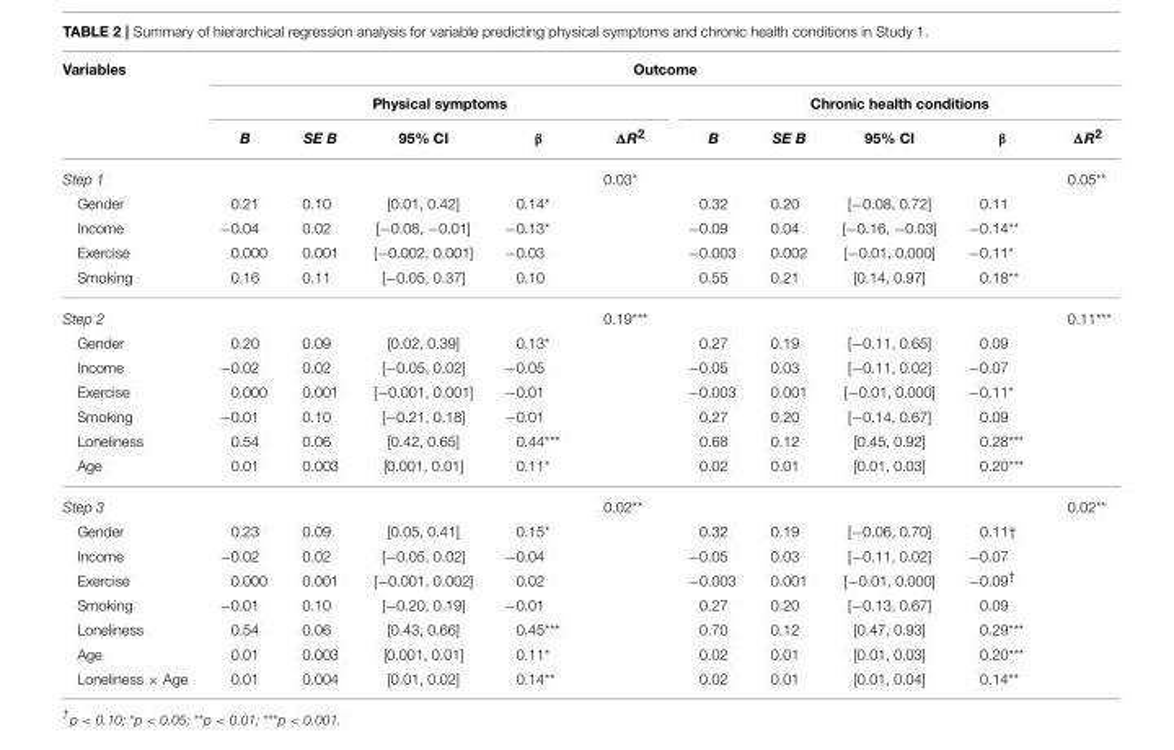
<table><thead><tr><td rowspan="3">Variables</td><td colspan="10">Outcome</td></tr><tr><td colspan="5">Physical symptoms</td><td colspan="5">Chronic health conditions</td></tr><tr><td>B</td><td>SE B</td><td>95% CI</td><td>β</td><td>ΔR<sup>2</sup></td><td>B</td><td>SE B</td><td>95% CI</td><td>β</td><td>ΔR<sup>2</sup></td></tr></thead><tbody><tr><td>Step 1</td><td></td><td></td><td></td><td></td><td>0.03*</td><td></td><td></td><td></td><td></td><td>0.05**</td></tr><tr><td>Gender</td><td>0.21</td><td>0.10</td><td>[0.01, 0.42]</td><td>0.14*</td><td></td><td>0.32</td><td>0.20</td><td>[−0.08, 0.72]</td><td>0.11</td><td></td></tr><tr><td>Income</td><td>−0.04</td><td>0.02</td><td>[−0.08, −0.01]</td><td>−0.13*</td><td></td><td>−0.09</td><td>0.04</td><td>[−0.16, −0.03]</td><td>−0.14**</td><td></td></tr><tr><td>Exercise</td><td>0.000</td><td>0.001</td><td>[−0.002, 0.001]</td><td>−0.03</td><td></td><td>−0.003</td><td>0.002</td><td>[−0.01, 0.000]</td><td>−0.11*</td><td></td></tr><tr><td>Smoking</td><td>0.16</td><td>0.11</td><td>[−0.05, 0.37]</td><td>0.10</td><td></td><td>0.55</td><td>0.21</td><td>[0.14, 0.97]</td><td>0.18**</td><td></td></tr><tr><td>Step 2</td><td></td><td></td><td></td><td></td><td>0.19***</td><td></td><td></td><td></td><td></td><td>0.11***</td></tr><tr><td>Gender</td><td>0.20</td><td>0.09</td><td>[0.02, 0.39]</td><td>0.13*</td><td></td><td>0.27</td><td>0.19</td><td>[−0.11, 0.65]</td><td>0.09</td><td></td></tr><tr><td>Income</td><td>−0.02</td><td>0.02</td><td>[−0.05, 0.02]</td><td>−0.05</td><td></td><td>−0.05</td><td>0.03</td><td>[−0.11, 0.02]</td><td>−0.07</td><td></td></tr><tr><td>Exercise</td><td>0.000</td><td>0.001</td><td>[−0.001, 0.001]</td><td>−0.01</td><td></td><td>−0.003</td><td>0.001</td><td>[−0.01, 0.000]</td><td>−0.11*</td><td></td></tr><tr><td>Smoking</td><td>−0.01</td><td>0.10</td><td>[−0.21, 0.18]</td><td>−0.01</td><td></td><td>0.27</td><td>0.20</td><td>[−0.14, 0.67]</td><td>0.09</td><td></td></tr><tr><td>Loneliness</td><td>0.54</td><td>0.06</td><td>[0.42, 0.65]</td><td>0.44***</td><td></td><td>0.68</td><td>0.12</td><td>[0.45, 0.92]</td><td>0.28***</td><td></td></tr><tr><td>Age</td><td>0.01</td><td>0.003</td><td>[0.001, 0.01]</td><td>0.11*</td><td></td><td>0.02</td><td>0.01</td><td>[0.01, 0.03]</td><td>0.20***</td><td></td></tr><tr><td>Step 3</td><td></td><td></td><td></td><td></td><td>0.02**</td><td></td><td></td><td></td><td></td><td>0.02**</td></tr><tr><td>Gender</td><td>0.23</td><td>0.09</td><td>[0.05, 0.41]</td><td>0.15*</td><td></td><td>0.32</td><td>0.19</td><td>[−0.06, 0.70]</td><td>0.11<sup>†</sup></td><td></td></tr><tr><td>Income</td><td>−0.02</td><td>0.02</td><td>[−0.05, 0.02]</td><td>−0.04</td><td></td><td>−0.05</td><td>0.03</td><td>[−0.11, 0.02]</td><td>−0.07</td><td></td></tr><tr><td>Exercise</td><td>0.000</td><td>0.001</td><td>[−0.001, 0.002]</td><td>0.02</td><td></td><td>−0.003</td><td>0.001</td><td>[−0.01, 0.000]</td><td>−0.09<sup>†</sup></td><td></td></tr><tr><td>Smoking</td><td>−0.01</td><td>0.10</td><td>[−0.20, 0.19]</td><td>−0.01</td><td></td><td>0.27</td><td>0.20</td><td>[−0.13, 0.67]</td><td>0.09</td><td></td></tr><tr><td>Loneliness</td><td>0.54</td><td>0.06</td><td>[0.43, 0.66]</td><td>0.45***</td><td></td><td>0.70</td><td>0.12</td><td>[0.47, 0.93]</td><td>0.29***</td><td></td></tr><tr><td>Age</td><td>0.01</td><td>0.003</td><td>[0.001, 0.01]</td><td>0.11*</td><td></td><td>0.02</td><td>0.01</td><td>[0.01, 0.03]</td><td>0.20***</td><td></td></tr><tr><td>Loneliness × Age</td><td>0.01</td><td>0.004</td><td>[0.01, 0.02]</td><td>0.14**</td><td></td><td>0.02</td><td>0.01</td><td>[0.01, 0.04]</td><td>0.14**</td><td></td></tr></tbody></table>